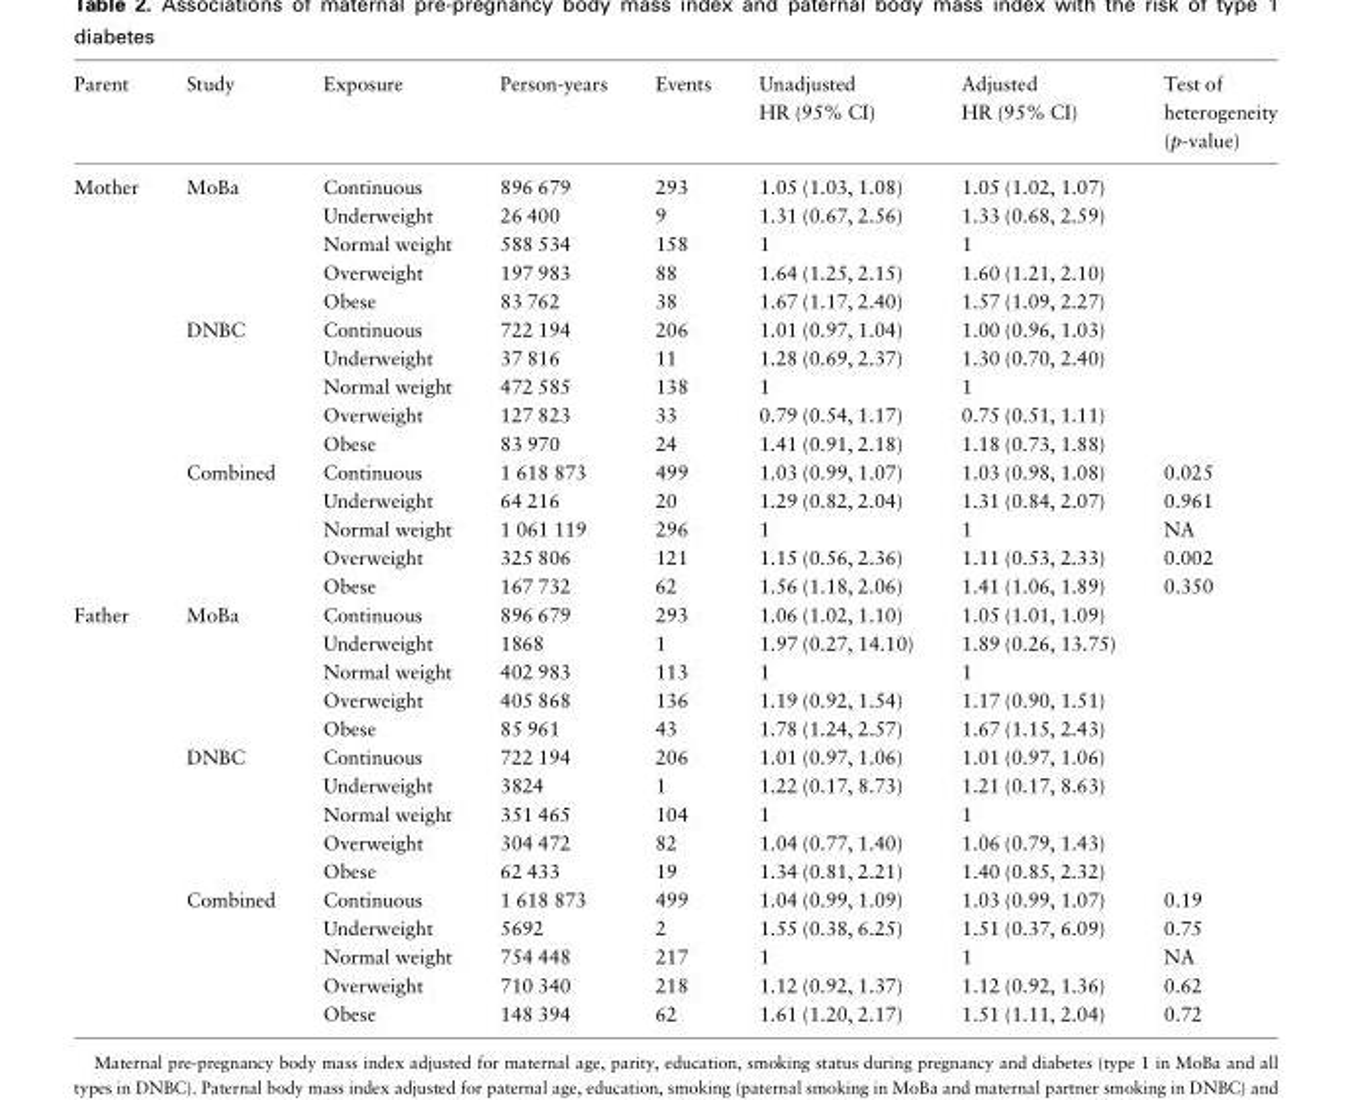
<table><thead><tr><td>Parent</td><td>Study</td><td>Exposure</td><td>Person-years</td><td>Events</td><td>Unadjusted HR (95% CI)</td><td>Adjusted HR (95% CI)</td><td>Test of heterogeneity (p-value)</td></tr></thead><tbody><tr><td rowspan="15">Mother</td><td rowspan="5">MoBa</td><td>Continuous</td><td>896 679</td><td>293</td><td>1.05 (1.03, 1.08)</td><td>1.05 (1.02, 1.07)</td><td></td></tr><tr><td>Underweight</td><td>26 400</td><td>9</td><td>1.31 (0.67, 2.56)</td><td>1.33 (0.68, 2.59)</td><td></td></tr><tr><td>Normal weight</td><td>588 534</td><td>158</td><td>1</td><td>1</td><td></td></tr><tr><td>Overweight</td><td>197 983</td><td>88</td><td>1.64 (1.25, 2.15)</td><td>1.60 (1.21, 2.10)</td><td></td></tr><tr><td>Obese</td><td>83 762</td><td>38</td><td>1.67 (1.17, 2.40)</td><td>1.57 (1.09, 2.27)</td><td></td></tr><tr><td rowspan="5">DNBC</td><td>Continuous</td><td>722 194</td><td>206</td><td>1.01 (0.97, 1.04)</td><td>1.00 (0.96, 1.03)</td><td></td></tr><tr><td>Underweight</td><td>37 816</td><td>11</td><td>1.28 (0.69, 2.37)</td><td>1.30 (0.70, 2.40)</td><td></td></tr><tr><td>Normal weight</td><td>472 585</td><td>138</td><td>1</td><td>1</td><td></td></tr><tr><td>Overweight</td><td>127 823</td><td>33</td><td>0.79 (0.54, 1.17)</td><td>0.75 (0.51, 1.11)</td><td></td></tr><tr><td>Obese</td><td>83 970</td><td>24</td><td>1.41 (0.91, 2.18)</td><td>1.18 (0.73, 1.88)</td><td></td></tr><tr><td rowspan="5">Combined</td><td>Continuous</td><td>1 618 873</td><td>499</td><td>1.03 (0.99, 1.07)</td><td>1.03 (0.98, 1.08)</td><td>0.025</td></tr><tr><td>Underweight</td><td>64 216</td><td>20</td><td>1.29 (0.82, 2.04)</td><td>1.31 (0.84, 2.07)</td><td>0.961</td></tr><tr><td>Normal weight</td><td>1 061 119</td><td>296</td><td>1</td><td>1</td><td>NA</td></tr><tr><td>Overweight</td><td>325 806</td><td>121</td><td>1.15 (0.56, 2.36)</td><td>1.11 (0.53, 2.33)</td><td>0.002</td></tr><tr><td>Obese</td><td>167 732</td><td>62</td><td>1.56 (1.18, 2.06)</td><td>1.41 (1.06, 1.89)</td><td>0.350</td></tr><tr><td rowspan="15">Father</td><td rowspan="5">MoBa</td><td>Continuous</td><td>896 679</td><td>293</td><td>1.06 (1.02, 1.10)</td><td>1.05 (1.01, 1.09)</td><td></td></tr><tr><td>Underweight</td><td>1868</td><td>1</td><td>1.97 (0.27, 14.10)</td><td>1.89 (0.26, 13.75)</td><td></td></tr><tr><td>Normal weight</td><td>402 983</td><td>113</td><td>1</td><td>1</td><td></td></tr><tr><td>Overweight</td><td>405 868</td><td>136</td><td>1.19 (0.92, 1.54)</td><td>1.17 (0.90, 1.51)</td><td></td></tr><tr><td>Obese</td><td>85 961</td><td>43</td><td>1.78 (1.24, 2.57)</td><td>1.67 (1.15, 2.43)</td><td></td></tr><tr><td rowspan="5">DNBC</td><td>Continuous</td><td>722 194</td><td>206</td><td>1.01 (0.97, 1.06)</td><td>1.01 (0.97, 1.06)</td><td></td></tr><tr><td>Underweight</td><td>3824</td><td>1</td><td>1.22 (0.17, 8.73)</td><td>1.21 (0.17, 8.63)</td><td></td></tr><tr><td>Normal weight</td><td>351 465</td><td>104</td><td>1</td><td>1</td><td></td></tr><tr><td>Overweight</td><td>304 472</td><td>82</td><td>1.04 (0.77, 1.40)</td><td>1.06 (0.79, 1.43)</td><td></td></tr><tr><td>Obese</td><td>62 433</td><td>19</td><td>1.34 (0.81, 2.21)</td><td>1.40 (0.85, 2.32)</td><td></td></tr><tr><td rowspan="5">Combined</td><td>Continuous</td><td>1 618 873</td><td>499</td><td>1.04 (0.99, 1.09)</td><td>1.03 (0.99, 1.07)</td><td>0.19</td></tr><tr><td>Underweight</td><td>5692</td><td>2</td><td>1.55 (0.38, 6.25)</td><td>1.51 (0.37, 6.09)</td><td>0.75</td></tr><tr><td>Normal weight</td><td>754 448</td><td>217</td><td>1</td><td>1</td><td>NA</td></tr><tr><td>Overweight</td><td>710 340</td><td>218</td><td>1.12 (0.92, 1.37)</td><td>1.12 (0.92, 1.36)</td><td>0.62</td></tr><tr><td>Obese</td><td>148 394</td><td>62</td><td>1.61 (1.20, 2.17)</td><td>1.51 (1.11, 2.04)</td><td>0.72</td></tr></tbody></table>